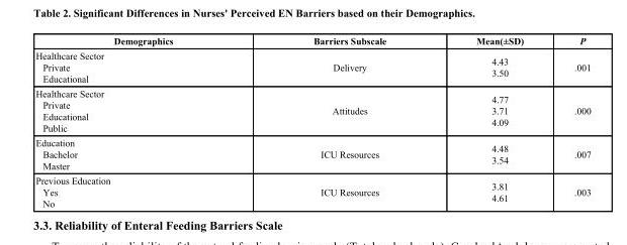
<table><thead><tr><td>Demographics</td><td>Barriers Subscale</td><td>Mean(±SD)</td><td>P</td></tr></thead><tbody><tr><td>Healthcare Sector Private Educational</td><td>Delivery</td><td>4.43 3.50</td><td>.001</td></tr><tr><td>Healthcare Sector Private Educational Public</td><td>Attitudes</td><td>4.77 3.71 4.09</td><td>.000</td></tr><tr><td>Education Bachelor Master</td><td>ICU Resources</td><td>4.48 3.54</td><td>.007</td></tr><tr><td>Previous Education Yes No</td><td>ICU Resources</td><td>3.81 4.61</td><td>.003</td></tr></tbody></table>